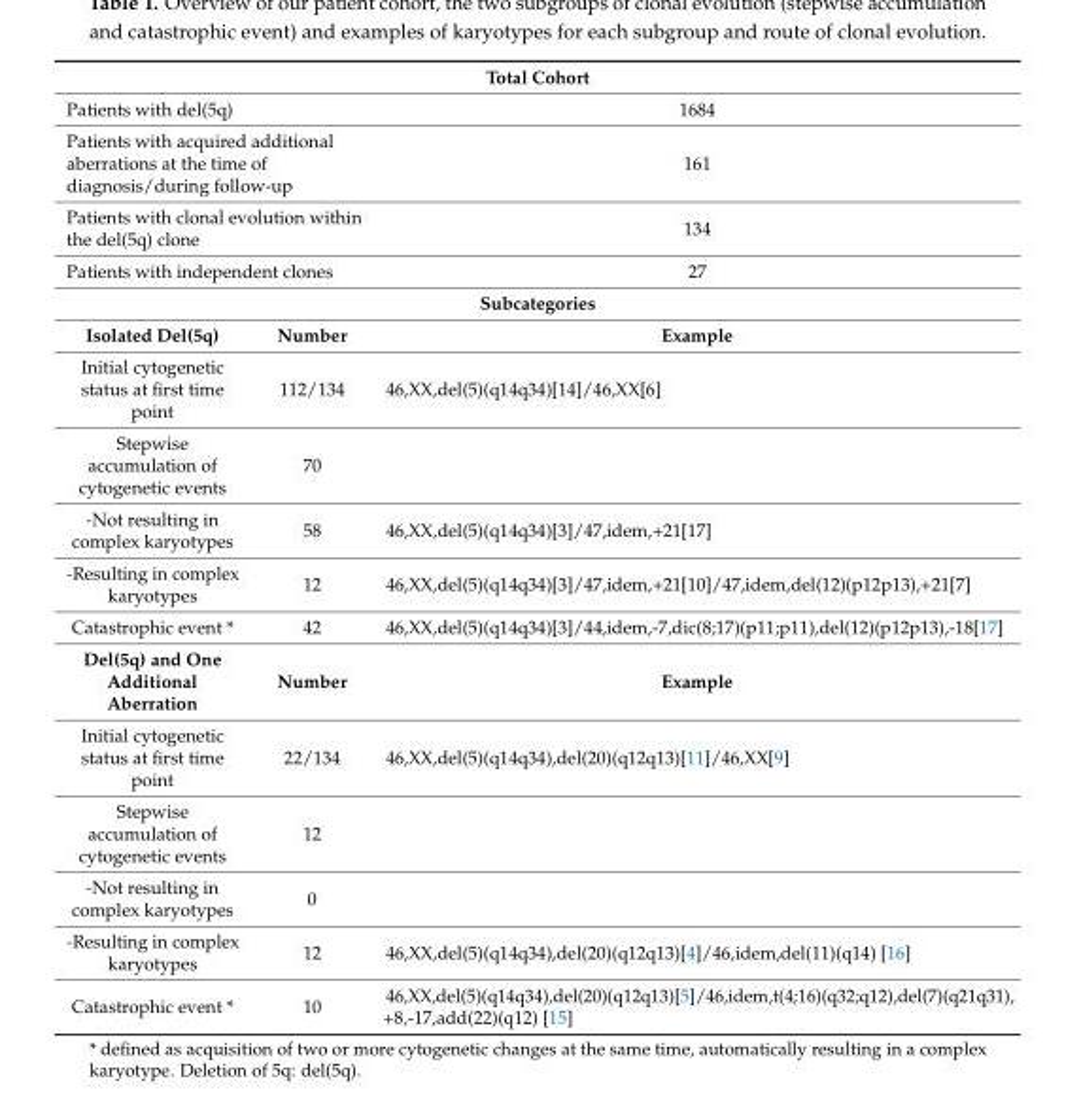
<table><tbody><tr><td colspan="3">Total Cohort</td></tr><tr><td colspan="2">Patients with del(5q)</td><td>1684</td></tr><tr><td colspan="2">Patients with acquired additional aberrations at the time of diagnosis/during follow-up</td><td>161</td></tr><tr><td colspan="2">Patients with clonal evolution within the del(5q) clone</td><td>134</td></tr><tr><td colspan="2">Patients with independent clones</td><td>27</td></tr><tr><td colspan="3">Subcategories</td></tr><tr><td>Isolated Del(5q)</td><td>Number</td><td>Example</td></tr><tr><td>Initial cytogenetic status at first time point</td><td>112/134</td><td>46,XX,del(5)(q14q34)[14]/46,XX[6]</td></tr><tr><td>Stepwise accumulation of cytogenetic events</td><td>70</td><td></td></tr><tr><td>-Not resulting in complex karyotypes</td><td>58</td><td>46,XX,del(5)(q14q34)[3]/47,idem,+21[17]</td></tr><tr><td>-Resulting in complex karyotypes</td><td>12</td><td>46,XX,del(5)(q14q34)[3]/47,idem,+21[10]/47,idem,del(12)(p12p13),+21[7]</td></tr><tr><td>Catastrophic event *</td><td>42</td><td>46,XX,del(5)(q14q34)[3]/44,idem,-7,dic(8;17)(p11;p11),del(12)(p12p13),-18[17]</td></tr><tr><td>Del(5q) and One Additional Aberration</td><td>Number</td><td>Example</td></tr><tr><td>Initial cytogenetic status at first time point</td><td>22/134</td><td>46,XX,del(5)(q14q34),del(20)(q12q13)[11]/46,XX[9]</td></tr><tr><td>Stepwise accumulation of cytogenetic events</td><td>12</td><td></td></tr><tr><td>-Not resulting in complex karyotypes</td><td>0</td><td></td></tr><tr><td>-Resulting in complex karyotypes</td><td>12</td><td>46,XX,del(5)(q14q34),del(20)(q12q13)[4]/46,idem,del(11)(q14) [16]</td></tr><tr><td>Catastrophic event *</td><td>10</td><td>46,XX,del(5)(q14q34),del(20)(q12q13)[5]/46,idem,t(4;16)(q32;q12),del(7)(q21q31), +8,-17,add(22)(q12) [15]</td></tr></tbody></table>